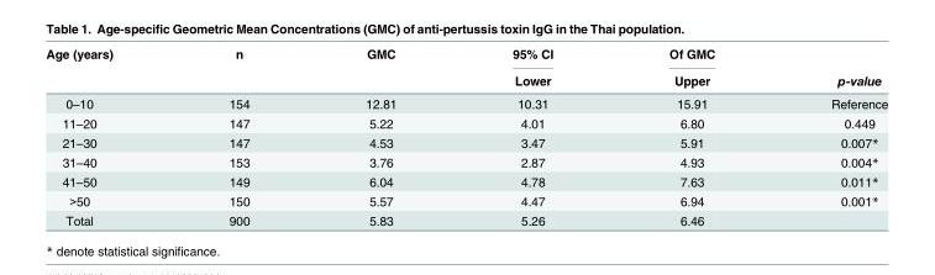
<table><thead><tr><td rowspan="2">Age (years)</td><td rowspan="2">n</td><td rowspan="2">GMC</td><td rowspan="2">95% CI Lower</td><td rowspan="2">Of GMC Upper</td><td rowspan="2">p-value</td></tr><tr></tr></thead><tbody><tr><td>0–10</td><td>154</td><td>12.81</td><td>10.31</td><td>15.91</td><td>Reference</td></tr><tr><td>11–20</td><td>147</td><td>5.22</td><td>4.01</td><td>6.80</td><td>0.449</td></tr><tr><td>21–30</td><td>147</td><td>4.53</td><td>3.47</td><td>5.91</td><td>0.007*</td></tr><tr><td>31–40</td><td>153</td><td>3.76</td><td>2.87</td><td>4.93</td><td>0.004*</td></tr><tr><td>41–50</td><td>149</td><td>6.04</td><td>4.78</td><td>7.63</td><td>0.011*</td></tr><tr><td>&gt;50</td><td>150</td><td>5.57</td><td>4.47</td><td>6.94</td><td>0.001*</td></tr><tr><td>Total</td><td>900</td><td>5.83</td><td>5.26</td><td>6.46</td><td></td></tr></tbody></table>